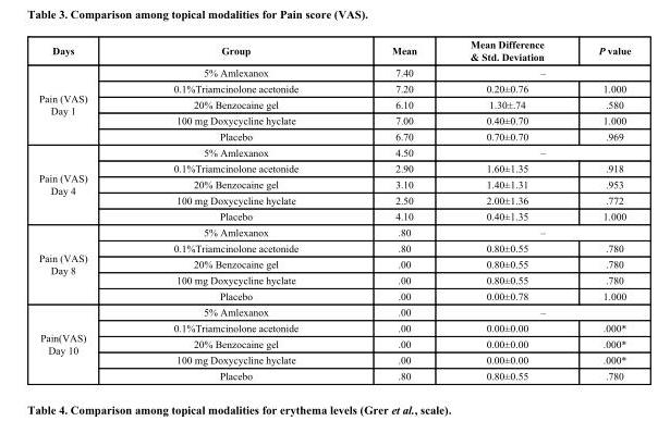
<table><thead><tr><td>Days</td><td>Group</td><td>Mean</td><td>Mean Difference &amp; Std. Deviation</td><td>P value</td></tr></thead><tbody><tr><td rowspan="5">Pain (VAS) Day 1</td><td>5% Amlexanox</td><td>7.40</td><td colspan="2">–</td></tr><tr><td>0.1%Triamcinolone acetonide</td><td>7.20</td><td>0.20±0.76</td><td>1.000</td></tr><tr><td>20% Benzocaine gel</td><td>6.10</td><td>1.30±.74</td><td>.580</td></tr><tr><td>100 mg Doxycycline hyclate</td><td>7.00</td><td>0.40±0.70</td><td>1.000</td></tr><tr><td>Placebo</td><td>6.70</td><td>0.70±0.70</td><td>.969</td></tr><tr><td rowspan="5">Pain (VAS) Day 4</td><td>5% Amlexanox</td><td>4.50</td><td colspan="2">–</td></tr><tr><td>0.1%Triamcinolone acetonide</td><td>2.90</td><td>1.60±1.35</td><td>.918</td></tr><tr><td>20% Benzocaine gel</td><td>3.10</td><td>1.40±1.31</td><td>.953</td></tr><tr><td>100 mg Doxycycline hyclate</td><td>2.50</td><td>2.00±1.36</td><td>.772</td></tr><tr><td>Placebo</td><td>4.10</td><td>0.40±1.35</td><td>1.000</td></tr><tr><td rowspan="5">Pain (VAS) Day 8</td><td>5% Amlexanox</td><td>.80</td><td colspan="2">–</td></tr><tr><td>0.1%Triamcinolone acetonide</td><td>.80</td><td>0.80±0.55</td><td>.780</td></tr><tr><td>20% Benzocaine gel</td><td>.00</td><td>0.80±0.55</td><td>.780</td></tr><tr><td>100 mg Doxycycline hyclate</td><td>.00</td><td>0.80±0.55</td><td>.780</td></tr><tr><td>Placebo</td><td>.00</td><td>0.00±0.78</td><td>1.000</td></tr><tr><td rowspan="5">Pain(VAS) Day 10</td><td>5% Amlexanox</td><td>.00</td><td colspan="2">–</td></tr><tr><td>0.1%Triamcinolone acetonide</td><td>.00</td><td>0.00±0.00</td><td>.000*</td></tr><tr><td>20% Benzocaine gel</td><td>.00</td><td>0.00±0.00</td><td>.000*</td></tr><tr><td>100 mg Doxycycline hyclate</td><td>.00</td><td>0.00±0.00</td><td>.000*</td></tr><tr><td>Placebo</td><td>.80</td><td>0.80±0.55</td><td>.780</td></tr></tbody></table>